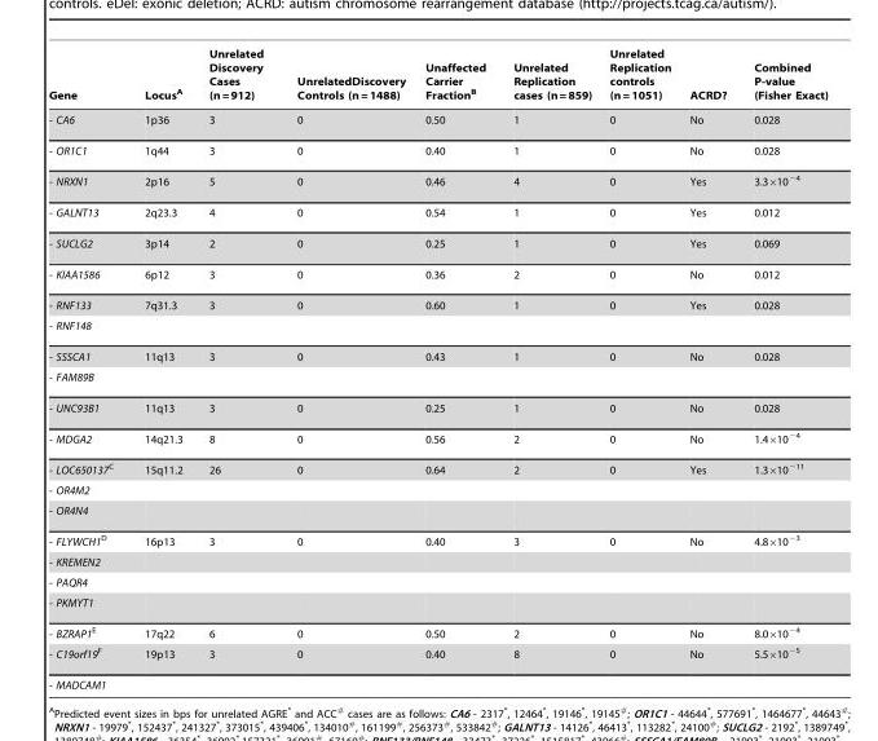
<table><thead><tr><td>Gene</td><td>Locus<sup>A</sup></td><td>Unrelated Discovery Cases (n = 912)</td><td>UnrelatedDiscovery Controls (n = 1488)</td><td>Unaffected Carrier Fraction<sup>B</sup></td><td>Unrelated Replication cases (n = 859)</td><td>Unrelated Replication controls (n = 1051)</td><td>ACRD?</td><td>Combined P-value (Fisher Exact)</td></tr></thead><tbody><tr><td>- CA6</td><td>1p36</td><td>3</td><td>0</td><td>0.50</td><td>1</td><td>0</td><td>No</td><td>0.028</td></tr><tr><td>- OR1C1</td><td>1q44</td><td>3</td><td>0</td><td>0.40</td><td>1</td><td>0</td><td>No</td><td>0.028</td></tr><tr><td>- NRXN1</td><td>2p16</td><td>5</td><td>0</td><td>0.46</td><td>4</td><td>0</td><td>Yes</td><td>3.3×10<sup>−4</sup></td></tr><tr><td>- GALNT13</td><td>2q23.3</td><td>4</td><td>0</td><td>0.54</td><td>1</td><td>0</td><td>Yes</td><td>0.012</td></tr><tr><td>- SUCLG2</td><td>3p14</td><td>2</td><td>0</td><td>0.25</td><td>1</td><td>0</td><td>Yes</td><td>0.069</td></tr><tr><td>- KIAA1586</td><td>6p12</td><td>3</td><td>0</td><td>0.36</td><td>2</td><td>0</td><td>No</td><td>0.012</td></tr><tr><td>- RNF133</td><td>7q31.3</td><td>3</td><td>0</td><td>0.60</td><td>1</td><td>0</td><td>Yes</td><td>0.028</td></tr><tr><td colspan="9">- RNF148</td></tr><tr><td>- SSSCA1</td><td>11q13</td><td>3</td><td>0</td><td>0.43</td><td>1</td><td>0</td><td>No</td><td>0.028</td></tr><tr><td colspan="9">- FAM89B</td></tr><tr><td>- UNC93B1</td><td>11q13</td><td>3</td><td>0</td><td>0.25</td><td>1</td><td>0</td><td>No</td><td>0.028</td></tr><tr><td>- MDGA2</td><td>14q21.3</td><td>8</td><td>0</td><td>0.56</td><td>2</td><td>0</td><td>No</td><td>1.4×10<sup>−4</sup></td></tr><tr><td>- LOC650137C</td><td>15q11.2</td><td>26</td><td>0</td><td>0.64</td><td>2</td><td>0</td><td>Yes</td><td>1.3×10<sup>−11</sup></td></tr><tr><td colspan="9">- OR4M2</td></tr><tr><td colspan="9">- OR4N4</td></tr><tr><td>- FLYWCH1D</td><td>16p13</td><td>3</td><td>0</td><td>0.40</td><td>3</td><td>0</td><td>No</td><td>4.8×10<sup>−3</sup></td></tr><tr><td colspan="9">- KREMEN2</td></tr><tr><td colspan="9">- PAQR4</td></tr><tr><td colspan="9">- PKMYT1</td></tr><tr><td>- BZRAP1E</td><td>17q22</td><td>6</td><td>0</td><td>0.50</td><td>2</td><td>0</td><td>No</td><td>8.0×10<sup>−4</sup></td></tr><tr><td>- C19orf19F</td><td>19p13</td><td>3</td><td>0</td><td>0.40</td><td>8</td><td>0</td><td>No</td><td>5.5×10<sup>−5</sup></td></tr><tr><td>- MADCAM1</td><td></td><td></td><td></td><td></td><td></td><td></td><td></td><td></td></tr></tbody></table>